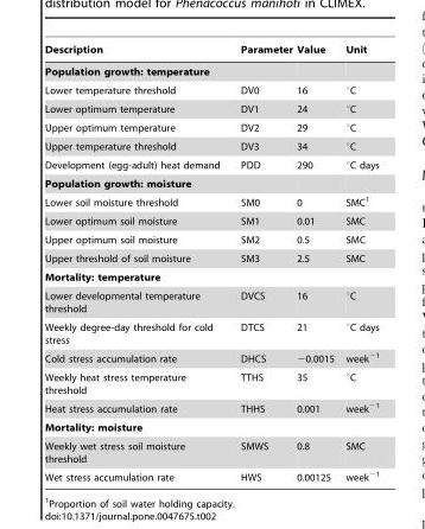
<table><thead><tr><td>Description</td><td>Parameter</td><td>Value</td><td>Unit</td></tr></thead><tbody><tr><td colspan="4">Population growth: temperature</td></tr><tr><td>Lower temperature threshold</td><td>DV0</td><td>16</td><td>°C</td></tr><tr><td>Lower optimum temperature</td><td>DV1</td><td>24</td><td>°C</td></tr><tr><td>Upper optimum temperature</td><td>DV2</td><td>29</td><td>°C</td></tr><tr><td>Upper temperature threshold</td><td>DV3</td><td>34</td><td>°C</td></tr><tr><td>Development (egg-adult) heat demand</td><td>PDD</td><td>290</td><td>°C days</td></tr><tr><td colspan="4">Population growth: moisture</td></tr><tr><td>Lower soil moisture threshold</td><td>SM0</td><td>0</td><td>SMC<sup>1</sup></td></tr><tr><td>Lower optimum soil moisture</td><td>SM1</td><td>0.01</td><td>SMC</td></tr><tr><td>Upper optimum soil moisture</td><td>SM2</td><td>0.5</td><td>SMC</td></tr><tr><td>Upper threshold of soil moisture</td><td>SM3</td><td>2.5</td><td>SMC</td></tr><tr><td colspan="4">Mortality: temperature</td></tr><tr><td>Lower developmental temperature threshold</td><td>DVCS</td><td>16</td><td>°C</td></tr><tr><td>Weekly degree-day threshold for cold stress</td><td>DTCS</td><td>21</td><td>°C days</td></tr><tr><td>Cold stress accumulation rate</td><td>DHCS</td><td>−0.0015</td><td>week<sup>−1</sup></td></tr><tr><td>Weekly heat stress temperature threshold</td><td>TTHS</td><td>35</td><td>°C</td></tr><tr><td>Heat stress accumulation rate</td><td>THHS</td><td>0.001</td><td>week<sup>−1</sup></td></tr><tr><td colspan="4">Mortality: moisture</td></tr><tr><td>Weekly wet stress soil moisture threshold</td><td>SMWS</td><td>0.8</td><td>SMC</td></tr><tr><td>Wet stress accumulation rate</td><td>HWS</td><td>0.00125</td><td>week<sup>−1</sup></td></tr></tbody></table>